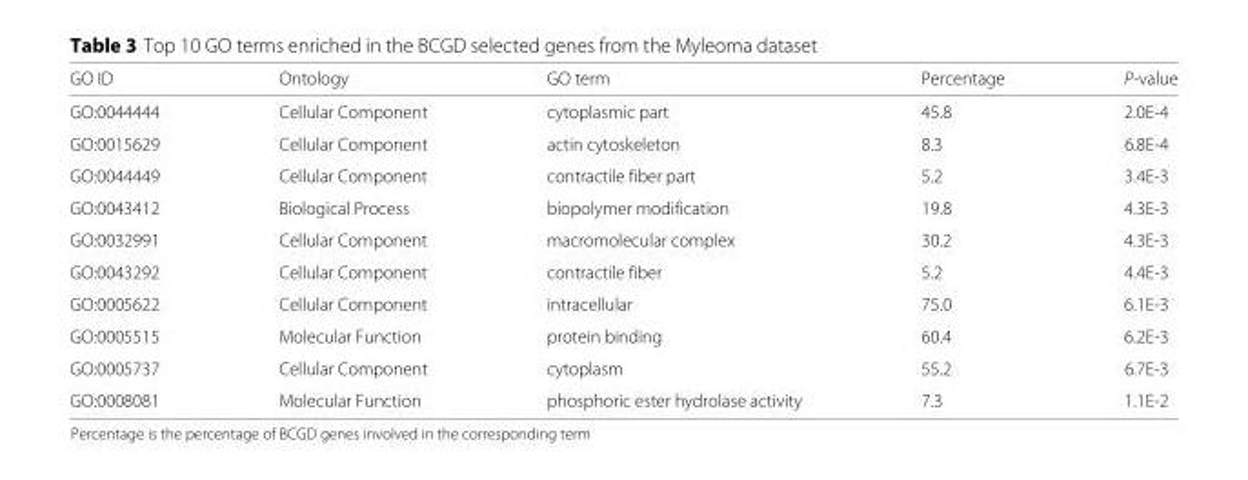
<table><thead><tr><td>GO ID</td><td>Ontology</td><td>GO term</td><td>Percentage</td><td>P-value</td></tr></thead><tbody><tr><td>GO:0044444</td><td>Cellular Component</td><td>cytoplasmic part</td><td>45.8</td><td>2.0E-4</td></tr><tr><td>GO:0015629</td><td>Cellular Component</td><td>actin cytoskeleton</td><td>8.3</td><td>6.8E-4</td></tr><tr><td>GO:0044449</td><td>Cellular Component</td><td>contractile fiber part</td><td>5.2</td><td>3.4E-3</td></tr><tr><td>GO:0043412</td><td>Biological Process</td><td>biopolymer modification</td><td>19.8</td><td>4.3E-3</td></tr><tr><td>GO:0032991</td><td>Cellular Component</td><td>macromolecular complex</td><td>30.2</td><td>4.3E-3</td></tr><tr><td>GO:0043292</td><td>Cellular Component</td><td>contractile fiber</td><td>5.2</td><td>4.4E-3</td></tr><tr><td>GO:0005622</td><td>Cellular Component</td><td>intracellular</td><td>75.0</td><td>6.1E-3</td></tr><tr><td>GO:0005515</td><td>Molecular Function</td><td>protein binding</td><td>60.4</td><td>6.2E-3</td></tr><tr><td>GO:0005737</td><td>Cellular Component</td><td>cytoplasm</td><td>55.2</td><td>6.7E-3</td></tr><tr><td>GO:0008081</td><td>Molecular Function</td><td>phosphoric ester hydrolase activity</td><td>7.3</td><td>1.1E-2</td></tr></tbody></table>